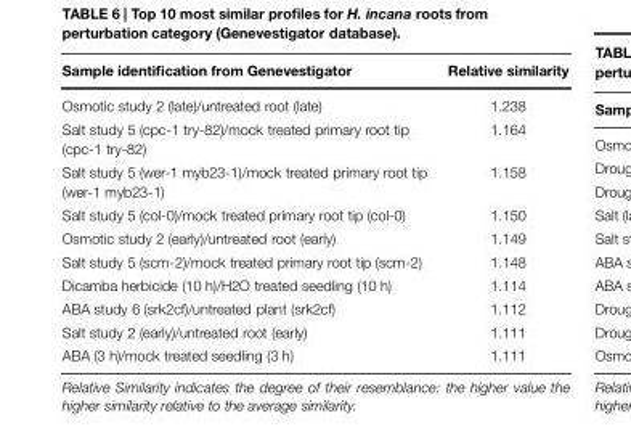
<table><thead><tr><td>Sample identification from Genevestigator</td><td>Relative similarity</td></tr></thead><tbody><tr><td>Osmotic study 2 (late)/untreated root (late)</td><td>1.238</td></tr><tr><td>Salt study 5 (cpc-1 try-82)/mock treated primary root tip (cpc-1 try-82)</td><td>1.164</td></tr><tr><td>Salt study 5 (wer-1 myb23-1)/mock treated primary root tip (wer-1 myb23-1)</td><td>1.158</td></tr><tr><td>Salt study 5 (col-0)/mock treated primary root tip (col-0)</td><td>1.150</td></tr><tr><td>Osmotic study 2 (early)/untreated root (early)</td><td>1.149</td></tr><tr><td>Salt study 5 (scm-2)/mock treated primary root tip (scm-2)</td><td>1.148</td></tr><tr><td>Dicamba herbicide (10 h)/H2O treated seedling (10 h)</td><td>1.114</td></tr><tr><td>ABA study 6 (srk2cf)/untreated plant (srk2cf)</td><td>1.112</td></tr><tr><td>Salt study 2 (early)/untreated root (early)</td><td>1.111</td></tr><tr><td>ABA (3 h)/mock treated seedling (3 h)</td><td>1.111</td></tr></tbody></table>